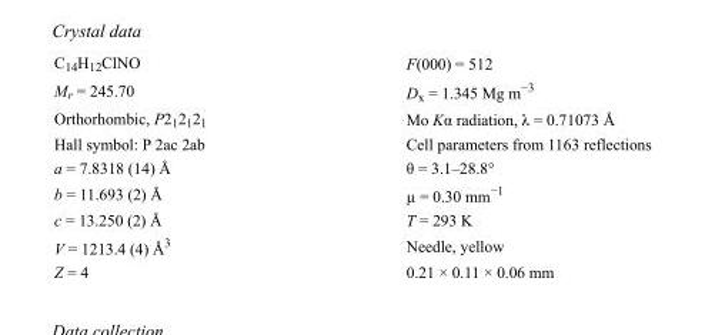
<table><tbody><tr><td>C<sub>14</sub>H<sub>12</sub>ClNO</td><td>F(000) = 512</td></tr><tr><td>M<sub>r</sub> = 245.70</td><td>D<sub>x</sub> = 1.345 Mg m<sup>−3</sup></td></tr><tr><td>Orthorhombic, P2<sub>1</sub>2<sub>1</sub>2<sub>1</sub></td><td>Mo Kα radiation, λ = 0.71073 Å</td></tr><tr><td>Hall symbol: P 2ac 2ab</td><td>Cell parameters from 1163 reflections</td></tr><tr><td>a = 7.8318 (14) Å</td><td>θ = 3.1–28.8°</td></tr><tr><td>b = 11.693 (2) Å</td><td>µ = 0.30 mm<sup>−1</sup></td></tr><tr><td>c = 13.250 (2) Å</td><td>T = 293 K</td></tr><tr><td>V = 1213.4 (4) Å<sup>3</sup></td><td>Needle, yellow</td></tr><tr><td>Z = 4</td><td>0.21 × 0.11 × 0.06 mm</td></tr></tbody></table>